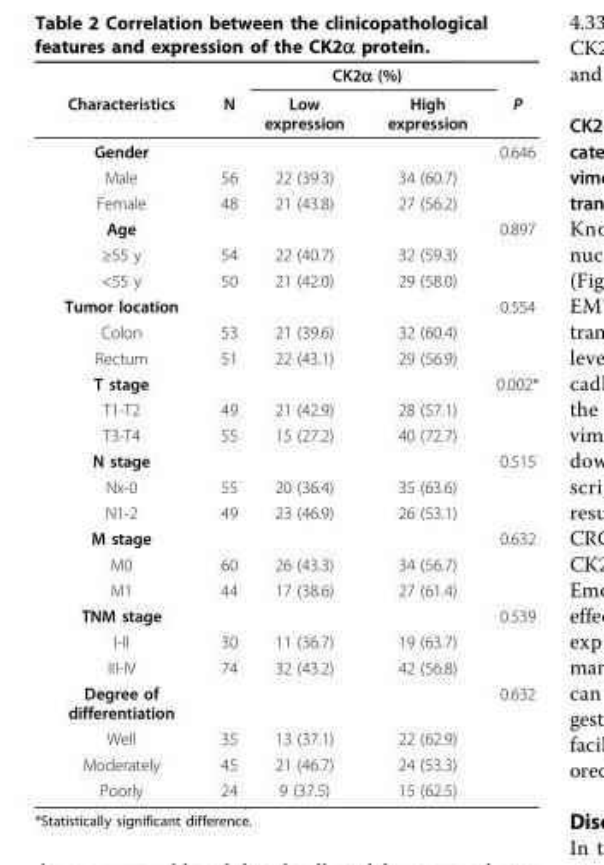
<table><thead><tr><td rowspan="2">Characteristics</td><td rowspan="2">N</td><td colspan="2">CK2α (%)</td><td rowspan="2">P</td></tr><tr><td>Low expression</td><td>High expression</td></tr></thead><tbody><tr><td>Gender</td><td></td><td></td><td></td><td>0.646</td></tr><tr><td>Male</td><td>56</td><td>22 (39.3)</td><td>34 (60.7)</td><td></td></tr><tr><td>Female</td><td>48</td><td>21 (43.8)</td><td>27 (56.2)</td><td></td></tr><tr><td>Age</td><td></td><td></td><td></td><td>0.897</td></tr><tr><td>≥55 y</td><td>54</td><td>22 (40.7)</td><td>32 (59.3)</td><td></td></tr><tr><td>&lt;55 y</td><td>50</td><td>21 (42.0)</td><td>29 (58.0)</td><td></td></tr><tr><td>Tumor location</td><td></td><td></td><td></td><td>0.554</td></tr><tr><td>Colon</td><td>53</td><td>21 (39.6)</td><td>32 (60.4)</td><td></td></tr><tr><td>Rectum</td><td>51</td><td>22 (43.1)</td><td>29 (56.9)</td><td></td></tr><tr><td>T stage</td><td></td><td></td><td></td><td>0.002*</td></tr><tr><td>T1-T2</td><td>49</td><td>21 (42.9)</td><td>28 (57.1)</td><td></td></tr><tr><td>T3-T4</td><td>55</td><td>15 (27.2)</td><td>40 (72.7)</td><td></td></tr><tr><td>N stage</td><td></td><td></td><td></td><td>0.515</td></tr><tr><td>Nx-0</td><td>55</td><td>20 (36.4)</td><td>35 (63.6)</td><td></td></tr><tr><td>N1-2</td><td>49</td><td>23 (46.9)</td><td>26 (53.1)</td><td></td></tr><tr><td>M stage</td><td></td><td></td><td></td><td>0.632</td></tr><tr><td>M0</td><td>60</td><td>26 (43.3)</td><td>34 (56.7)</td><td></td></tr><tr><td>M1</td><td>44</td><td>17 (38.6)</td><td>27 (61.4)</td><td></td></tr><tr><td>TNM stage</td><td></td><td></td><td></td><td>0.539</td></tr><tr><td>I-II</td><td>30</td><td>11 (36.7)</td><td>19 (63.7)</td><td></td></tr><tr><td>III-IV</td><td>74</td><td>32 (43.2)</td><td>42 (56.8)</td><td></td></tr><tr><td>Degree of differentiation</td><td></td><td></td><td></td><td>0.632</td></tr><tr><td>Well</td><td>35</td><td>13 (37.1)</td><td>22 (62.9)</td><td></td></tr><tr><td>Moderately</td><td>45</td><td>21 (46.7)</td><td>24 (53.3)</td><td></td></tr><tr><td>Poorly</td><td>24</td><td>9 (37.5)</td><td>15 (62.5)</td><td></td></tr></tbody></table>